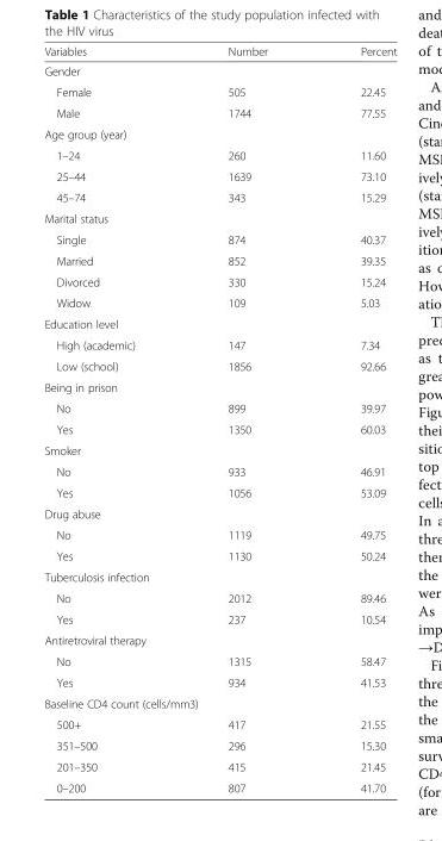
<table><thead><tr><td>Variables</td><td>Number</td><td>Percent</td></tr></thead><tbody><tr><td colspan="3">Gender</td></tr><tr><td>Female</td><td>505</td><td>22.45</td></tr><tr><td>Male</td><td>1744</td><td>77.55</td></tr><tr><td colspan="3">Age group (year)</td></tr><tr><td>1–24</td><td>260</td><td>11.60</td></tr><tr><td>25–44</td><td>1639</td><td>73.10</td></tr><tr><td>45–74</td><td>343</td><td>15.29</td></tr><tr><td colspan="3">Marital status</td></tr><tr><td>Single</td><td>874</td><td>40.37</td></tr><tr><td>Married</td><td>852</td><td>39.35</td></tr><tr><td>Divorced</td><td>330</td><td>15.24</td></tr><tr><td>Widow</td><td>109</td><td>5.03</td></tr><tr><td colspan="3">Education level</td></tr><tr><td>High (academic)</td><td>147</td><td>7.34</td></tr><tr><td>Low (school)</td><td>1856</td><td>92.66</td></tr><tr><td colspan="3">Being in prison</td></tr><tr><td>No</td><td>899</td><td>39.97</td></tr><tr><td>Yes</td><td>1350</td><td>60.03</td></tr><tr><td colspan="3">Smoker</td></tr><tr><td>No</td><td>933</td><td>46.91</td></tr><tr><td>Yes</td><td>1056</td><td>53.09</td></tr><tr><td colspan="3">Drug abuse</td></tr><tr><td>No</td><td>1119</td><td>49.75</td></tr><tr><td>Yes</td><td>1130</td><td>50.24</td></tr><tr><td colspan="3">Tuberculosis infection</td></tr><tr><td>No</td><td>2012</td><td>89.46</td></tr><tr><td>Yes</td><td>237</td><td>10.54</td></tr><tr><td colspan="3">Antiretroviral therapy</td></tr><tr><td>No</td><td>1315</td><td>58.47</td></tr><tr><td>Yes</td><td>934</td><td>41.53</td></tr><tr><td colspan="3">Baseline CD4 count (cells/mm3)</td></tr><tr><td>500+</td><td>417</td><td>21.55</td></tr><tr><td>351–500</td><td>296</td><td>15.30</td></tr><tr><td>201–350</td><td>415</td><td>21.45</td></tr><tr><td>0–200</td><td>807</td><td>41.70</td></tr></tbody></table>